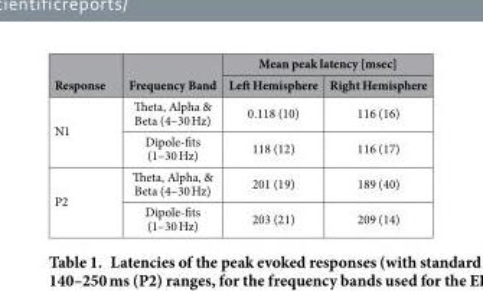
<table><thead><tr><td rowspan="2">Response</td><td rowspan="2">Frequency Band</td><td colspan="2">Mean peak latency [msec]</td></tr><tr><td>Left Hemisphere</td><td>Right Hemisphere</td></tr></thead><tbody><tr><td rowspan="2">N1</td><td>Theta, Alpha &amp; Beta (4–30 Hz)</td><td>0.118 (10)</td><td>116 (16)</td></tr><tr><td>Dipole-fits (1–30 Hz)</td><td>118 (12)</td><td>116 (17)</td></tr><tr><td rowspan="2">P2</td><td>Theta, Alpha, &amp; Beta (4–30 Hz)</td><td>201 (19)</td><td>189 (40)</td></tr><tr><td>Dipole-fits (1–30 Hz)</td><td>203 (21)</td><td>209 (14)</td></tr></tbody></table>